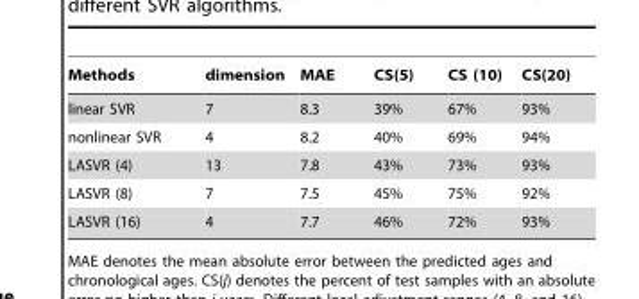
<table><thead><tr><td>Methods</td><td>dimension</td><td>MAE</td><td>CS(5)</td><td>CS (10)</td><td>CS(20)</td></tr></thead><tbody><tr><td>linear SVR</td><td>7</td><td>8.3</td><td>39%</td><td>67%</td><td>93%</td></tr><tr><td>nonlinear SVR</td><td>4</td><td>8.2</td><td>40%</td><td>69%</td><td>94%</td></tr><tr><td>LASVR (4)</td><td>13</td><td>7.8</td><td>43%</td><td>73%</td><td>93%</td></tr><tr><td>LASVR (8)</td><td>7</td><td>7.5</td><td>45%</td><td>75%</td><td>92%</td></tr><tr><td>LASVR (16)</td><td>4</td><td>7.7</td><td>46%</td><td>72%</td><td>93%</td></tr></tbody></table>